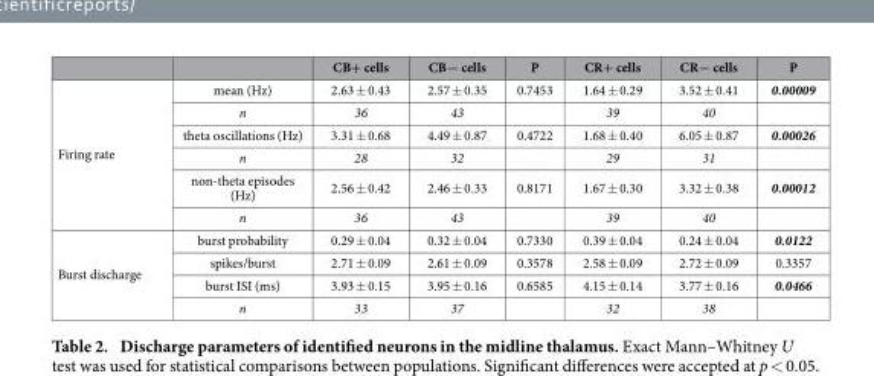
<table><thead><tr><td></td><td></td><td>CB+ cells</td><td>CB− cells</td><td>P</td><td>CR+ cells</td><td>CR− cells</td><td>P</td></tr></thead><tbody><tr><td rowspan="6">Firing rate</td><td>mean (Hz)</td><td>2.63 ± 0.43</td><td>2.57 ± 0.35</td><td>0.7453</td><td>1.64 ± 0.29</td><td>3.52 ± 0.41</td><td>0.00009</td></tr><tr><td>n</td><td>36</td><td>43</td><td></td><td>39</td><td>40</td><td></td></tr><tr><td>theta oscillations (Hz)</td><td>3.31 ± 0.68</td><td>4.49 ± 0.87</td><td>0.4722</td><td>1.68 ± 0.40</td><td>6.05 ± 0.87</td><td>0.00026</td></tr><tr><td>n</td><td>28</td><td>32</td><td></td><td>29</td><td>31</td><td></td></tr><tr><td>non-theta episodes (Hz)</td><td>2.56 ± 0.42</td><td>2.46 ± 0.33</td><td>0.8171</td><td>1.67 ± 0.30</td><td>3.32 ± 0.38</td><td>0.00012</td></tr><tr><td>n</td><td>36</td><td>43</td><td></td><td>39</td><td>40</td><td></td></tr><tr><td rowspan="4">Burst discharge</td><td>burst probability</td><td>0.29 ± 0.04</td><td>0.32 ± 0.04</td><td>0.7330</td><td>0.39 ± 0.04</td><td>0.24 ± 0.04</td><td>0.0122</td></tr><tr><td>spikes/burst</td><td>2.71 ± 0.09</td><td>2.61 ± 0.09</td><td>0.3578</td><td>2.58 ± 0.09</td><td>2.72 ± 0.09</td><td>0.3357</td></tr><tr><td>burst ISI (ms)</td><td>3.93 ± 0.15</td><td>3.95 ± 0.16</td><td>0.6585</td><td>4.15 ± 0.14</td><td>3.77 ± 0.16</td><td>0.0466</td></tr><tr><td>n</td><td>33</td><td>37</td><td></td><td>32</td><td>38</td><td></td></tr></tbody></table>